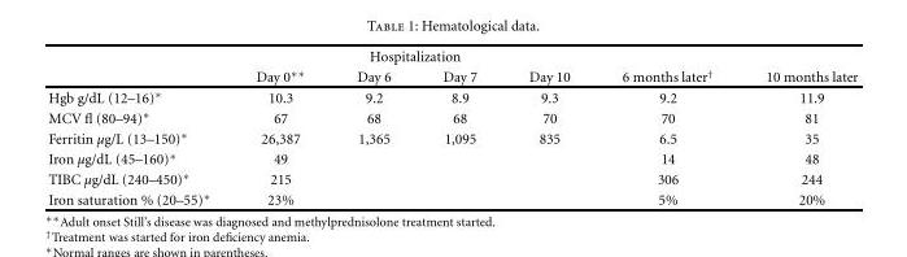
<table><thead><tr><td rowspan="2"></td><td colspan="4">Hospitalization</td><td rowspan="2">6 months later<sup>†</sup></td><td rowspan="2">10 months later</td></tr><tr><td>Day 0∗∗</td><td>Day 6</td><td>Day 7</td><td>Day 10</td></tr></thead><tbody><tr><td>Hgb g/dL (12–16)∗</td><td>10.3</td><td>9.2</td><td>8.9</td><td>9.3</td><td>9.2</td><td>11.9</td></tr><tr><td>MCV fl (80–94)∗</td><td>67</td><td>68</td><td>68</td><td>70</td><td>70</td><td>81</td></tr><tr><td>Ferritin μg/L (13–150)∗</td><td>26,387</td><td>1,365</td><td>1,095</td><td>835</td><td>6.5</td><td>35</td></tr><tr><td>Iron μg/dL (45–160)∗</td><td>49</td><td></td><td></td><td></td><td>14</td><td>48</td></tr><tr><td>TIBC μg/dL (240–450)∗</td><td>215</td><td></td><td></td><td></td><td>306</td><td>244</td></tr><tr><td>Iron saturation % (20–55)∗</td><td>23%</td><td></td><td></td><td></td><td>5%</td><td>20%</td></tr></tbody></table>